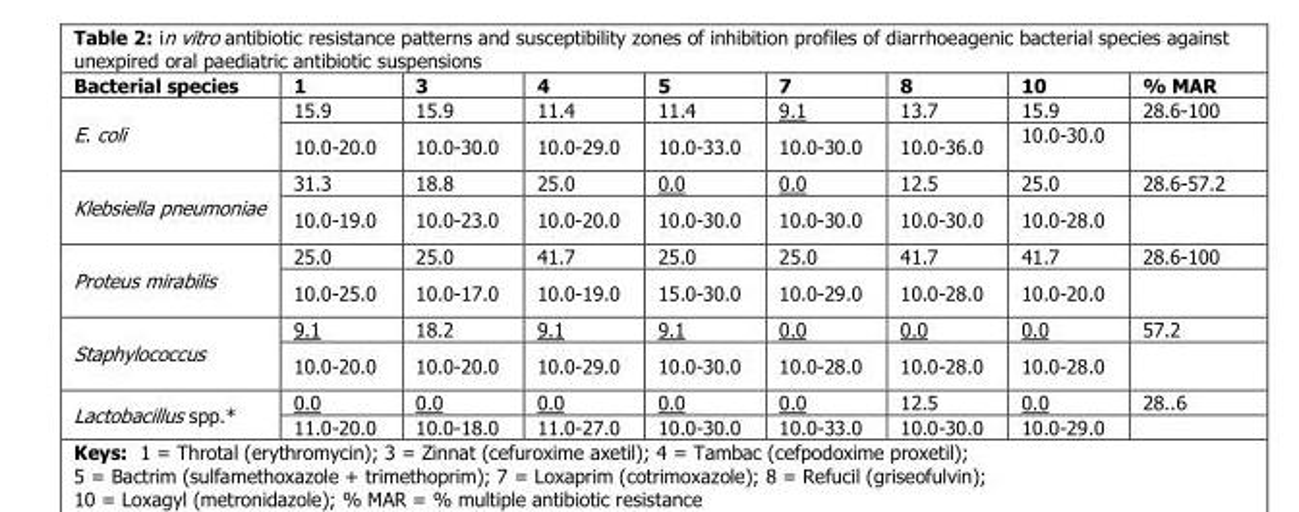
<table><thead><tr><td>Bacterial species</td><td>1</td><td>3</td><td>4</td><td>5</td><td>7</td><td>8</td><td>10</td><td>% MAR</td></tr></thead><tbody><tr><td rowspan="2">E. coli</td><td>15.9</td><td>15.9</td><td>11.4</td><td>11.4</td><td>9.1</td><td>13.7</td><td>15.9</td><td>28.6-100</td></tr><tr><td>10.0-20.0</td><td>10.0-30.0</td><td>10.0-29.0</td><td>10.0-33.0</td><td>10.0-30.0</td><td>10.0-36.0</td><td>10.0-30.0</td><td></td></tr><tr><td rowspan="2">Klebsiella pneumoniae</td><td>31.3</td><td>18.8</td><td>25.0</td><td>0.0</td><td>0.0</td><td>12.5</td><td>25.0</td><td>28.6-57.2</td></tr><tr><td>10.0-19.0</td><td>10.0-23.0</td><td>10.0-20.0</td><td>10.0-30.0</td><td>10.0-30.0</td><td>10.0-30.0</td><td>10.0-28.0</td><td></td></tr><tr><td rowspan="2">Proteus mirabilis</td><td>25.0</td><td>25.0</td><td>41.7</td><td>25.0</td><td>25.0</td><td>41.7</td><td>41.7</td><td>28.6-100</td></tr><tr><td>10.0-25.0</td><td>10.0-17.0</td><td>10.0-19.0</td><td>15.0-30.0</td><td>10.0-29.0</td><td>10.0-28.0</td><td>10.0-20.0</td><td></td></tr><tr><td rowspan="2">Staphylococcus</td><td>9.1</td><td>18.2</td><td>9.1</td><td>9.1</td><td>0.0</td><td>0.0</td><td>0.0</td><td>57.2</td></tr><tr><td>10.0-20.0</td><td>10.0-20.0</td><td>10.0-29.0</td><td>10.0-30.0</td><td>10.0-28.0</td><td>10.0-28.0</td><td>10.0-28.0</td><td></td></tr><tr><td rowspan="2">Lactobacillus spp.*</td><td>0.0</td><td>0.0</td><td>0.0</td><td>0.0</td><td>0.0</td><td>12.5</td><td>0.0</td><td>28..6</td></tr><tr><td>11.0-20.0</td><td>10.0-18.0</td><td>11.0-27.0</td><td>10.0-30.0</td><td>10.0-33.0</td><td>10.0-30.0</td><td>10.0-29.0</td><td></td></tr></tbody></table>